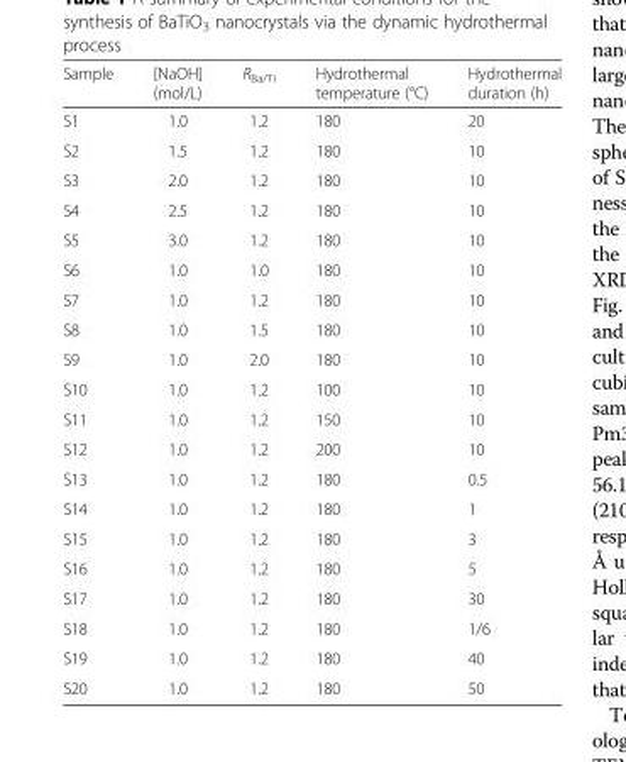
<table><thead><tr><td>Sample</td><td>[NaOH] (mol/L)</td><td>R<sub>Ba/Ti</sub></td><td>Hydrothermal temperature (°C)</td><td>Hydrothermal duration (h)</td></tr></thead><tbody><tr><td>S1</td><td>1.0</td><td>1.2</td><td>180</td><td>20</td></tr><tr><td>S2</td><td>1.5</td><td>1.2</td><td>180</td><td>10</td></tr><tr><td>S3</td><td>2.0</td><td>1.2</td><td>180</td><td>10</td></tr><tr><td>S4</td><td>2.5</td><td>1.2</td><td>180</td><td>10</td></tr><tr><td>S5</td><td>3.0</td><td>1.2</td><td>180</td><td>10</td></tr><tr><td>S6</td><td>1.0</td><td>1.0</td><td>180</td><td>10</td></tr><tr><td>S7</td><td>1.0</td><td>1.2</td><td>180</td><td>10</td></tr><tr><td>S8</td><td>1.0</td><td>1.5</td><td>180</td><td>10</td></tr><tr><td>S9</td><td>1.0</td><td>2.0</td><td>180</td><td>10</td></tr><tr><td>S10</td><td>1.0</td><td>1.2</td><td>100</td><td>10</td></tr><tr><td>S11</td><td>1.0</td><td>1.2</td><td>150</td><td>10</td></tr><tr><td>S12</td><td>1.0</td><td>1.2</td><td>200</td><td>10</td></tr><tr><td>S13</td><td>1.0</td><td>1.2</td><td>180</td><td>0.5</td></tr><tr><td>S14</td><td>1.0</td><td>1.2</td><td>180</td><td>1</td></tr><tr><td>S15</td><td>1.0</td><td>1.2</td><td>180</td><td>3</td></tr><tr><td>S16</td><td>1.0</td><td>1.2</td><td>180</td><td>5</td></tr><tr><td>S17</td><td>1.0</td><td>1.2</td><td>180</td><td>30</td></tr><tr><td>S18</td><td>1.0</td><td>1.2</td><td>180</td><td>1/6</td></tr><tr><td>S19</td><td>1.0</td><td>1.2</td><td>180</td><td>40</td></tr><tr><td>S20</td><td>1.0</td><td>1.2</td><td>180</td><td>50</td></tr></tbody></table>